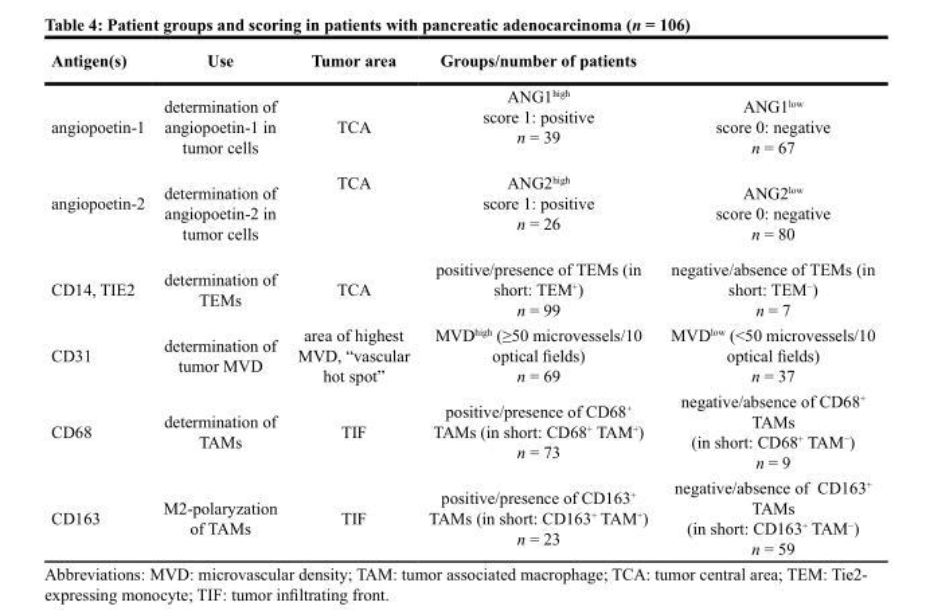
<table><thead><tr><td>Antigen(s)</td><td>use</td><td>tumor area</td><td>Groups/number of patients</td><td></td></tr></thead><tbody><tr><td>angiopoetin-1</td><td>determination of angiopoetin-1 in tumor cells</td><td>TCA</td><td>ANG1<sup>high</sup> score 1: positive n = 39</td><td>ANG1<sup>low</sup> score 0: negative n = 67</td></tr><tr><td>angiopoetin-2</td><td>determination of angiopoetin-2 in tumor cells</td><td>TCA</td><td>ANG2<sup>high</sup> score 1: positive n = 26</td><td>ANG2<sup>low</sup> score 0: negative n = 80</td></tr><tr><td>CD14, TIE2</td><td>determination of TEMs</td><td>TCA</td><td>positive/presence of TEMs (in short: TEM<sup>+</sup>) n = 99</td><td>negative/absence of TEMs (in short: TEM<sup>−</sup>) n = 7</td></tr><tr><td>CD31</td><td>determination of tumor MVD</td><td>area of highest MVD, “vascular hot spot”</td><td>MVD<sup>high</sup> (≥50 microvessels/10 optical fields) n = 69</td><td>MVD<sup>low</sup> (&lt;50 microvessels/10 optical fields) n = 37</td></tr><tr><td>CD68</td><td>determination of TAMs</td><td>TIF</td><td>positive/presence of CD68<sup>+</sup> TAMs (in short: CD68<sup>+</sup> TAM<sup>+</sup>) n = 73</td><td>negative/absence of CD68<sup>+</sup> TAMs (in short: CD68<sup>+</sup> TAM<sup>−</sup>) n = 9</td></tr><tr><td>CD163</td><td>M2-polaryzation of TAMs</td><td>TIF</td><td>positive/presence of CD163<sup>+</sup> TAMs (in short: CD163<sup>+</sup> TAM<sup>+</sup>) n = 23</td><td>negative/absence of CD163<sup>+</sup> TAMs (in short: CD163<sup>+</sup> TAM<sup>−</sup>) n = 59</td></tr></tbody></table>